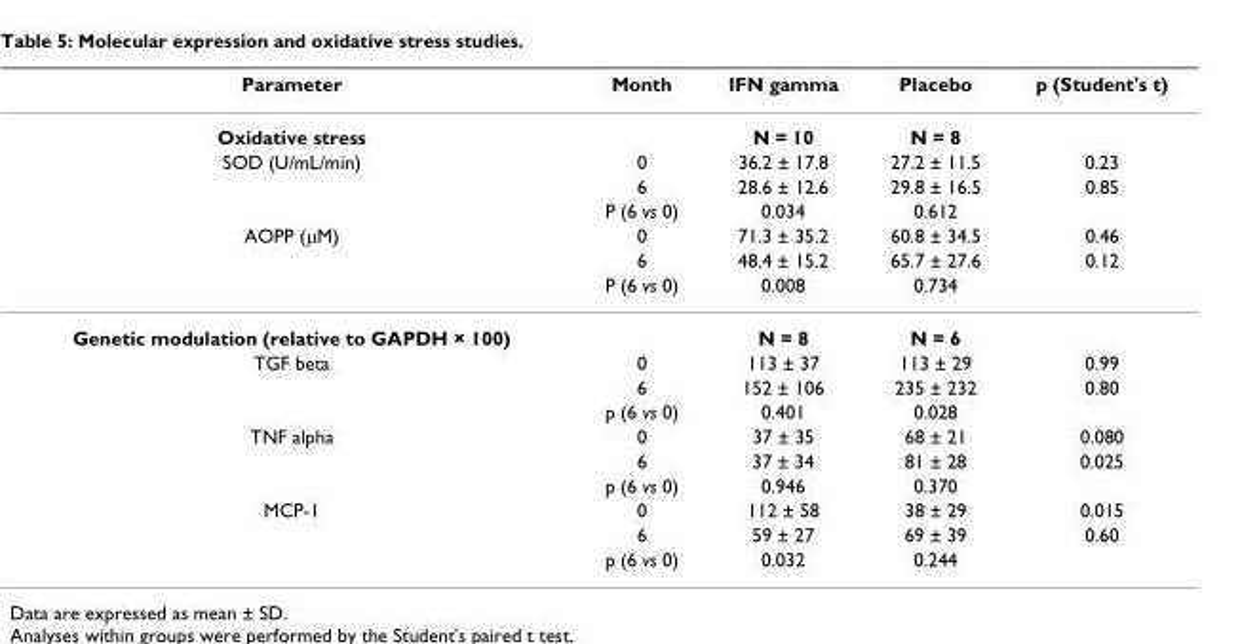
<table><thead><tr><td>Parameter</td><td>Month</td><td>IFN gamma</td><td>Placebo</td><td>p (Student&#x27;s t)</td></tr></thead><tbody><tr><td>Oxidative stress</td><td></td><td>N = 10</td><td>N = 8</td><td></td></tr><tr><td rowspan="3">SOD (U/mL/min)</td><td>0</td><td>36.2 ± 17.8</td><td>27.2 ± 11.5</td><td>0.23</td></tr><tr><td>6</td><td>28.6 ± 12.6</td><td>29.8 ± 16.5</td><td>0.85</td></tr><tr><td>P (6 vs 0)</td><td>0.034</td><td>0.612</td><td></td></tr><tr><td rowspan="3">AOPP (µM)</td><td>0</td><td>71.3 ± 35.2</td><td>60.8 ± 34.5</td><td>0.46</td></tr><tr><td>6</td><td>48.4 ± 15.2</td><td>65.7 ± 27.6</td><td>0.12</td></tr><tr><td>P (6 vs 0)</td><td>0.008</td><td>0.734</td><td></td></tr><tr><td>Genetic modulation (relative to GAPDH × 100)</td><td></td><td>N = 8</td><td>N = 6</td><td></td></tr><tr><td rowspan="3">TGF beta</td><td>0</td><td>113 ± 37</td><td>113 ± 29</td><td>0.99</td></tr><tr><td>6</td><td>152 ± 106</td><td>235 ± 232</td><td>0.80</td></tr><tr><td>p (6 vs 0)</td><td>0.401</td><td>0.028</td><td></td></tr><tr><td rowspan="3">TNF alpha</td><td>0</td><td>37 ± 35</td><td>68 ± 21</td><td>0.080</td></tr><tr><td>6</td><td>37 ± 34</td><td>81 ± 28</td><td>0.025</td></tr><tr><td>p (6 vs 0)</td><td>0.946</td><td>0.370</td><td></td></tr><tr><td rowspan="3">MCP-1</td><td>0</td><td>112 ± 58</td><td>38 ± 29</td><td>0.015</td></tr><tr><td>6</td><td>59 ± 27</td><td>69 ± 39</td><td>0.60</td></tr><tr><td>p (6 vs 0)</td><td>0.032</td><td>0.244</td><td></td></tr></tbody></table>